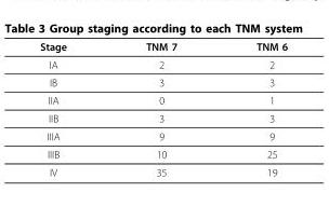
<table><thead><tr><td>Stage</td><td>TNM 7</td><td>TNM 6</td></tr></thead><tbody><tr><td>IA</td><td>2</td><td>2</td></tr><tr><td>IB</td><td>3</td><td>3</td></tr><tr><td>IIA</td><td>0</td><td>1</td></tr><tr><td>IIB</td><td>3</td><td>3</td></tr><tr><td>IIIA</td><td>9</td><td>9</td></tr><tr><td>IIIB</td><td>10</td><td>25</td></tr><tr><td>IV</td><td>35</td><td>19</td></tr></tbody></table>